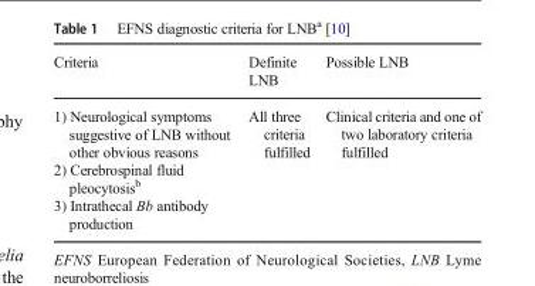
<table><thead><tr><td>Criteria</td><td>Definite LNB</td><td>Possible LNB</td></tr></thead><tbody><tr><td>1) Neurological symptoms suggestive of LNB without other obvious reasons 2) Cerebrospinal fluid pleocytosis<sup>b</sup> 3) Intrathecal Bb antibody production</td><td>All three criteria fulfilled</td><td>Clinical criteria and one of two laboratory criteria fulfilled</td></tr></tbody></table>